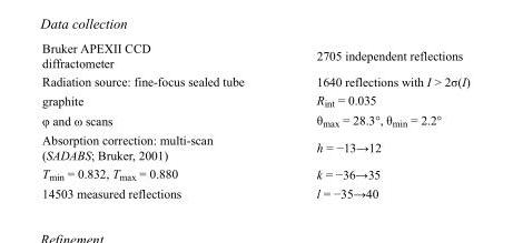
<table><tbody><tr><td>Bruker APEXII CCD diffractometer</td><td>2705 independent reflections</td></tr><tr><td>Radiation source: fine-focus sealed tube</td><td>1640 reflections with I &gt; 2σ(I)</td></tr><tr><td>graphite</td><td>R<sub>int</sub> = 0.035</td></tr><tr><td>φ and ω scans</td><td>θ<sub>max</sub> = 28.3°, θ<sub>min</sub> = 2.2°</td></tr><tr><td>Absorption correction: multi-scan (SADABS; Bruker, 2001)</td><td>h = −13→12</td></tr><tr><td>T<sub>min</sub> = 0.832, T<sub>max</sub> = 0.880</td><td>k = −36→35</td></tr><tr><td>14503 measured reflections</td><td>l = −35→40</td></tr></tbody></table>